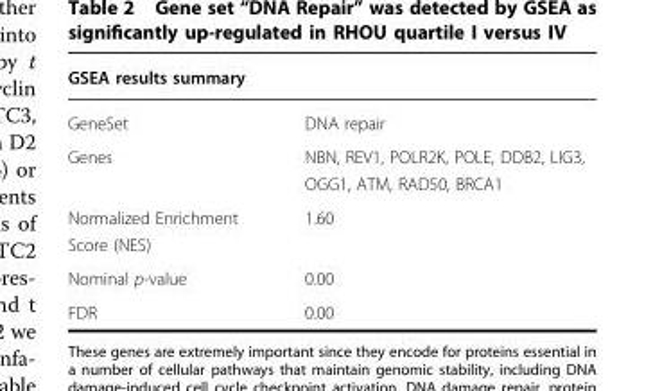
<table><thead><tr><td colspan="2">GSEA results summary</td></tr><tr><td>GeneSet</td><td>DNA repair</td></tr></thead><tbody><tr><td>Genes</td><td>NBN, REV1, POLR2K, POLE, DDB2, LIG3, OGG1, ATM, RAD50, BRCA1</td></tr><tr><td>Normalized Enrichment Score (NES)</td><td>1.60</td></tr><tr><td>Nominal p-value</td><td>0.00</td></tr><tr><td>FDR</td><td>0.00</td></tr></tbody></table>